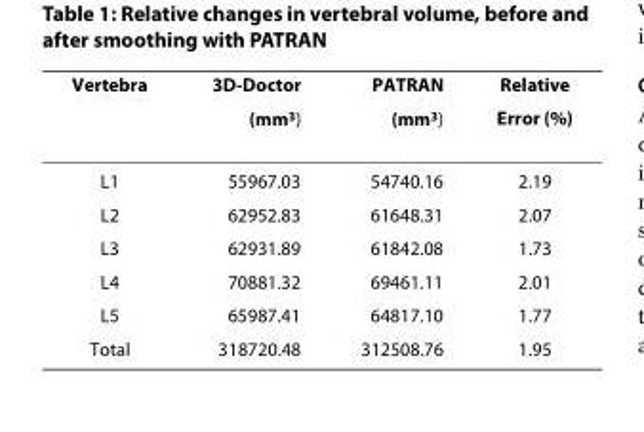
<table><thead><tr><td rowspan="2">Vertebra</td><td rowspan="2">3D-Doctor (mm<sup>3</sup>)</td><td rowspan="2">PATRAN (mm<sup>3</sup>)</td><td rowspan="2">Relative Error (%)</td></tr><tr></tr></thead><tbody><tr><td>L1</td><td>55967.03</td><td>54740.16</td><td>2.19</td></tr><tr><td>L2</td><td>62952.83</td><td>61648.31</td><td>2.07</td></tr><tr><td>L3</td><td>62931.89</td><td>61842.08</td><td>1.73</td></tr><tr><td>L4</td><td>70881.32</td><td>69461.11</td><td>2.01</td></tr><tr><td>L5</td><td>65987.41</td><td>64817.10</td><td>1.77</td></tr><tr><td>Total</td><td>318720.48</td><td>312508.76</td><td>1.95</td></tr></tbody></table>